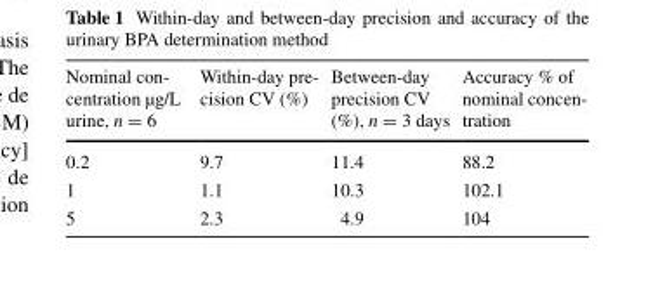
<table><thead><tr><td>Nominal con- centration µg/L urine, n = 6</td><td>Within-day pre- cision CV (%)</td><td>Between-day precision CV (%), n = 3 days</td><td>Accuracy % of nominal concen- tration</td></tr></thead><tbody><tr><td>0.2</td><td>9.7</td><td>11.4</td><td>88.2</td></tr><tr><td>1</td><td>1.1</td><td>10.3</td><td>102.1</td></tr><tr><td>5</td><td>2.3</td><td>4.9</td><td>104</td></tr></tbody></table>